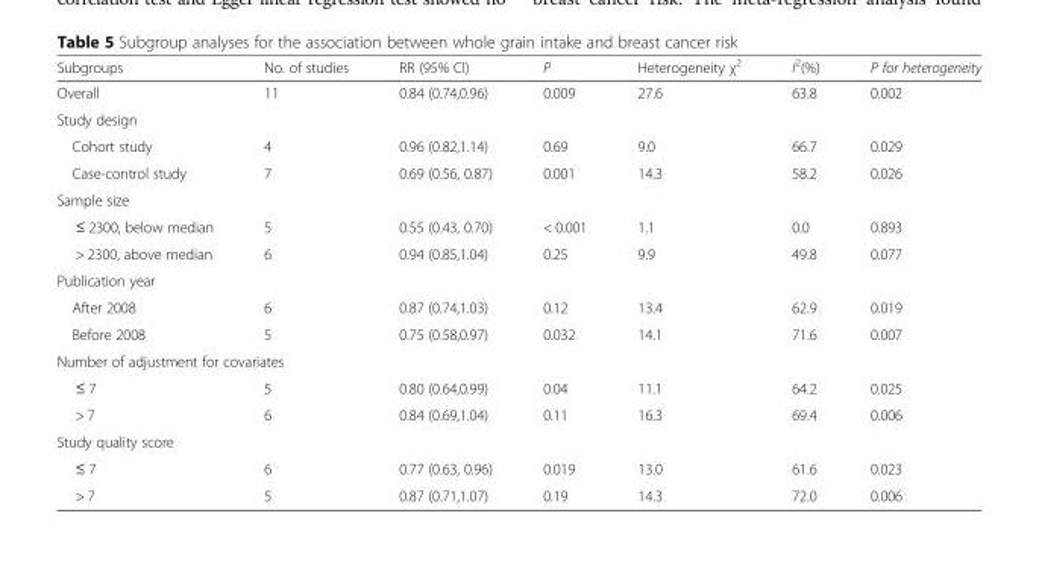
<table><thead><tr><td>Subgroups</td><td>No. of studies</td><td>RR (95% CI)</td><td>P</td><td>Heterogeneity χ<sup>2</sup></td><td>I<sup>2</sup>(%)</td><td>P for heterogeneity</td></tr></thead><tbody><tr><td>Overall</td><td>11</td><td>0.84 (0.74,0.96)</td><td>0.009</td><td>27.6</td><td>63.8</td><td>0.002</td></tr><tr><td colspan="7">Study design</td></tr><tr><td>Cohort study</td><td>4</td><td>0.96 (0.82,1.14)</td><td>0.69</td><td>9.0</td><td>66.7</td><td>0.029</td></tr><tr><td>Case-control study</td><td>7</td><td>0.69 (0.56, 0.87)</td><td>0.001</td><td>14.3</td><td>58.2</td><td>0.026</td></tr><tr><td colspan="7">Sample size</td></tr><tr><td>≤ 2300, below median</td><td>5</td><td>0.55 (0.43, 0.70)</td><td>&lt; 0.001</td><td>1.1</td><td>0.0</td><td>0.893</td></tr><tr><td>&gt; 2300, above median</td><td>6</td><td>0.94 (0.85,1.04)</td><td>0.25</td><td>9.9</td><td>49.8</td><td>0.077</td></tr><tr><td colspan="7">Publication year</td></tr><tr><td>After 2008</td><td>6</td><td>0.87 (0.74,1.03)</td><td>0.12</td><td>13.4</td><td>62.9</td><td>0.019</td></tr><tr><td>Before 2008</td><td>5</td><td>0.75 (0.58,0.97)</td><td>0.032</td><td>14.1</td><td>71.6</td><td>0.007</td></tr><tr><td colspan="7">Number of adjustment for covariates</td></tr><tr><td>≤ 7</td><td>5</td><td>0.80 (0.64,0.99)</td><td>0.04</td><td>11.1</td><td>64.2</td><td>0.025</td></tr><tr><td>&gt; 7</td><td>6</td><td>0.84 (0.69,1.04)</td><td>0.11</td><td>16.3</td><td>69.4</td><td>0.006</td></tr><tr><td colspan="7">Study quality score</td></tr><tr><td>≤ 7</td><td>6</td><td>0.77 (0.63, 0.96)</td><td>0.019</td><td>13.0</td><td>61.6</td><td>0.023</td></tr><tr><td>&gt; 7</td><td>5</td><td>0.87 (0.71,1.07)</td><td>0.19</td><td>14.3</td><td>72.0</td><td>0.006</td></tr></tbody></table>